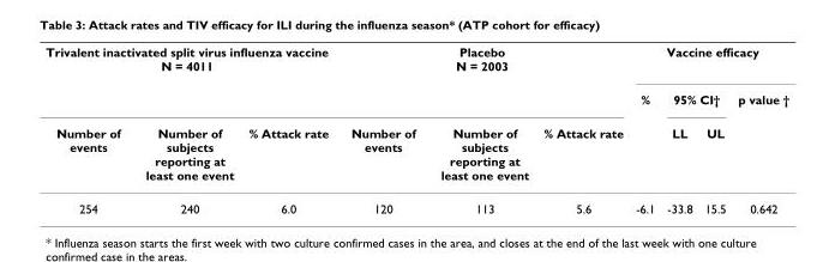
<table><thead><tr><td colspan="3">Trivalent inactivated split virus influenza vaccine N = 4011</td><td colspan="3">Placebo N = 2003</td><td colspan="4">Vaccine efficacy</td></tr><tr><td rowspan="2">Number of events</td><td rowspan="2">Number of subjects reporting at least one event</td><td rowspan="2">% Attack rate</td><td rowspan="2">Number of events</td><td rowspan="2">Number of subjects reporting at least one event</td><td rowspan="2">% Attack rate</td><td rowspan="2">%</td><td colspan="2">95% CI†</td><td rowspan="2">p value †</td></tr><tr><td>LL</td><td>UL</td></tr></thead><tbody><tr><td>254</td><td>240</td><td>6.0</td><td>120</td><td>113</td><td>5.6</td><td>-6.1</td><td>-33.8</td><td>15.5</td><td>0.642</td></tr></tbody></table>